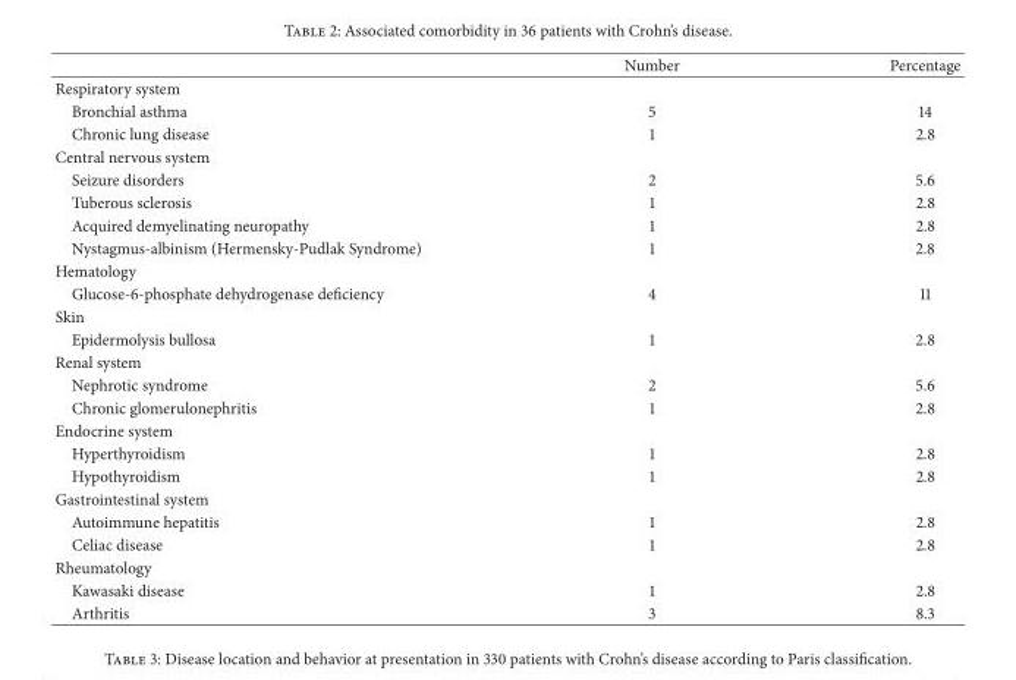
<table><thead><tr><td></td><td>Number</td><td>Percentage</td></tr></thead><tbody><tr><td colspan="3">Respiratory system</td></tr><tr><td>Bronchial asthma</td><td>5</td><td>14</td></tr><tr><td>Chronic lung disease</td><td>1</td><td>2.8</td></tr><tr><td colspan="3">Central nervous system</td></tr><tr><td>Seizure disorders</td><td>2</td><td>5.6</td></tr><tr><td>Tuberous sclerosis</td><td>1</td><td>2.8</td></tr><tr><td>Acquired demyelinating neuropathy</td><td>1</td><td>2.8</td></tr><tr><td>Nystagmus-albinism (Hermensky-Pudlak Syndrome)</td><td>1</td><td>2.8</td></tr><tr><td colspan="3">Hematology</td></tr><tr><td>Glucose-6-phosphate dehydrogenase deficiency</td><td>4</td><td>11</td></tr><tr><td colspan="3">Skin</td></tr><tr><td>Epidermolysis bullosa</td><td>1</td><td>2.8</td></tr><tr><td colspan="3">Renal system</td></tr><tr><td>Nephrotic syndrome</td><td>2</td><td>5.6</td></tr><tr><td>Chronic glomerulonephritis</td><td>1</td><td>2.8</td></tr><tr><td colspan="3">Endocrine system</td></tr><tr><td>Hyperthyroidism</td><td>1</td><td>2.8</td></tr><tr><td>Hypothyroidism</td><td>1</td><td>2.8</td></tr><tr><td colspan="3">Gastrointestinal system</td></tr><tr><td>Autoimmune hepatitis</td><td>1</td><td>2.8</td></tr><tr><td>Celiac disease</td><td>1</td><td>2.8</td></tr><tr><td colspan="3">Rheumatology</td></tr><tr><td>Kawasaki disease</td><td>1</td><td>2.8</td></tr><tr><td>Arthritis</td><td>3</td><td>8.3</td></tr></tbody></table>